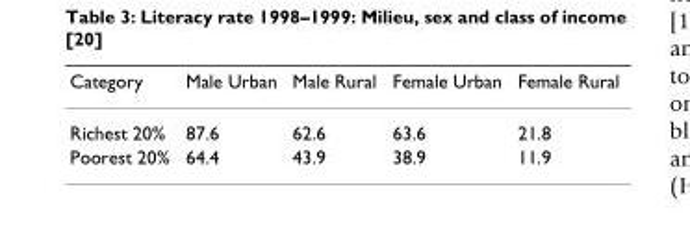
<table><thead><tr><td>Category</td><td>Male Urban</td><td>Male Rural</td><td>Female Urban</td><td>Female Rural</td></tr></thead><tbody><tr><td>Richest 20%</td><td>87.6</td><td>62.6</td><td>63.6</td><td>21.8</td></tr><tr><td>Poorest 20%</td><td>64.4</td><td>43.9</td><td>38.9</td><td>11.9</td></tr></tbody></table>